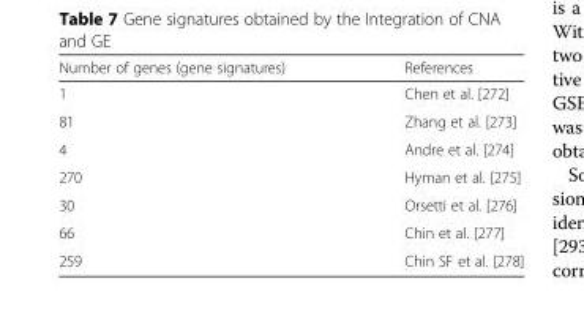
<table><thead><tr><td>Number of genes (gene signatures)</td><td>References</td></tr></thead><tbody><tr><td>1</td><td>Chen et al. [272]</td></tr><tr><td>81</td><td>Zhang et al. [273]</td></tr><tr><td>4</td><td>Andre et al. [274]</td></tr><tr><td>270</td><td>Hyman et al. [275]</td></tr><tr><td>30</td><td>Orsetti et al. [276]</td></tr><tr><td>66</td><td>Chin et al. [277]</td></tr><tr><td>259</td><td>Chin SF et al. [278]</td></tr></tbody></table>